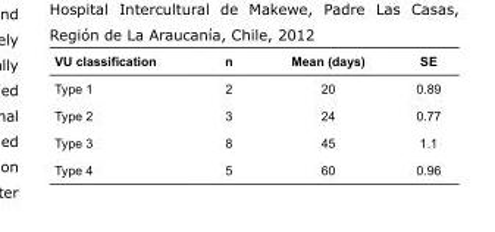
<table><thead><tr><td>VU classification</td><td>n</td><td>Mean (days)</td><td>SE</td></tr></thead><tbody><tr><td>Type 1</td><td>2</td><td>20</td><td>0.89</td></tr><tr><td>Type 2</td><td>3</td><td>24</td><td>0.77</td></tr><tr><td>Type 3</td><td>8</td><td>45</td><td>1.1</td></tr><tr><td>Type 4</td><td>5</td><td>60</td><td>0.96</td></tr></tbody></table>